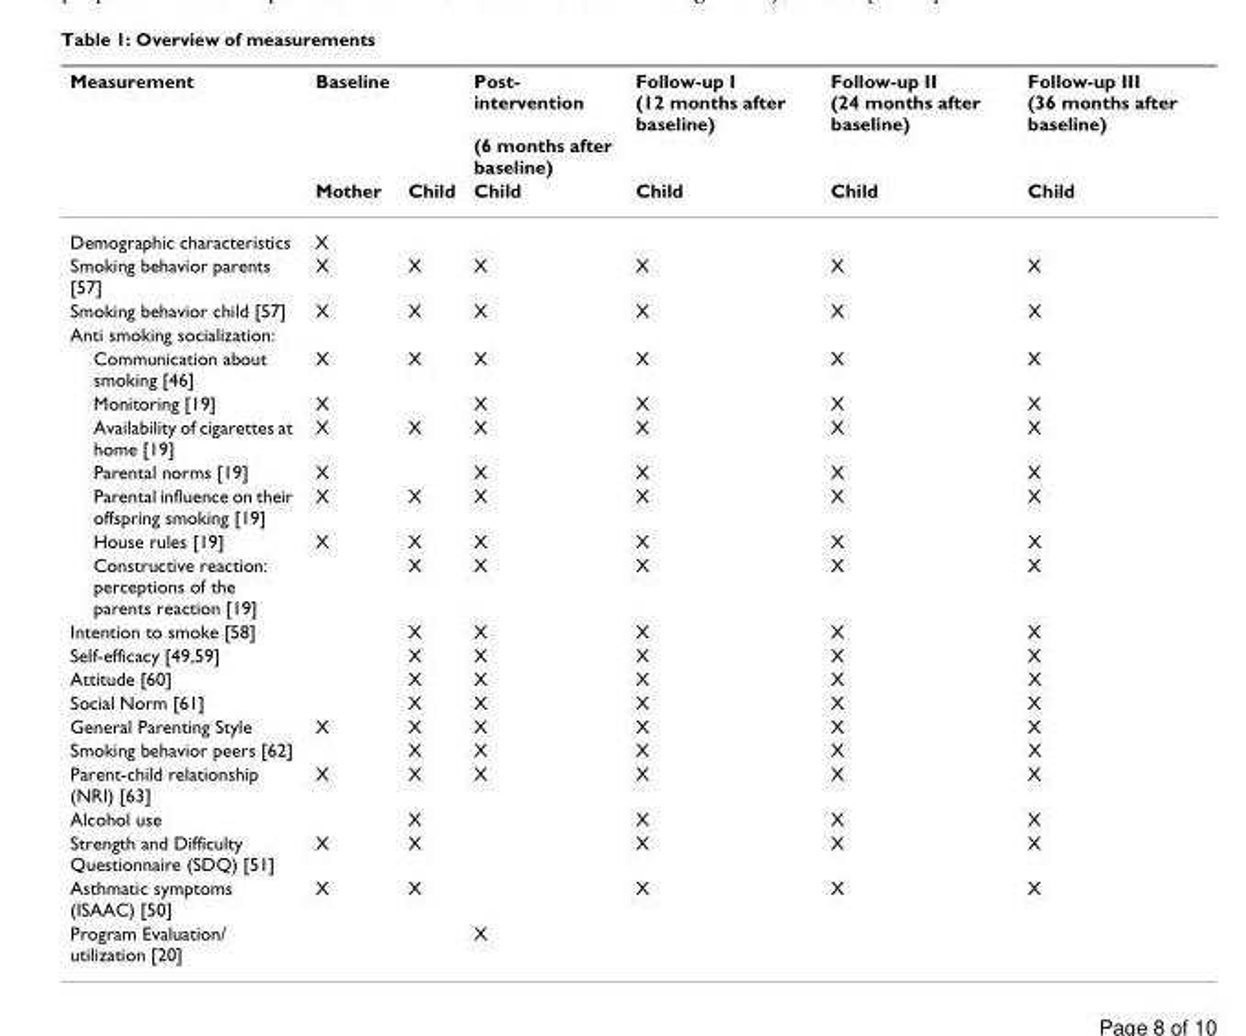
<table><thead><tr><td rowspan="2">Measurement</td><td rowspan="2">Baseline Mother</td><td rowspan="2">Child</td><td rowspan="2">Post- intervention (6 months after baseline) Child</td><td rowspan="2">Follow-up I (12 months after baseline) Child</td><td rowspan="2">Follow-up II (24 months after baseline) Child</td><td rowspan="2">Follow-up III (36 months after baseline) Child</td></tr><tr></tr></thead><tbody><tr><td>Demographic characteristics</td><td>X</td><td></td><td></td><td></td><td></td><td></td></tr><tr><td>Smoking behavior parents [57]</td><td>X</td><td>X</td><td>X</td><td>X</td><td>X</td><td>X</td></tr><tr><td>Smoking behavior child [57]</td><td>X</td><td>X</td><td>X</td><td>X</td><td>X</td><td>X</td></tr><tr><td colspan="7">Anti smoking socialization:</td></tr><tr><td>Communication about smoking [46]</td><td>X</td><td>X</td><td>X</td><td>X</td><td>X</td><td>X</td></tr><tr><td>Monitoring [19]</td><td>X</td><td></td><td>X</td><td>X</td><td>X</td><td>X</td></tr><tr><td>Availability of cigarettes at home [19]</td><td>X</td><td>X</td><td>X</td><td>X</td><td>X</td><td>X</td></tr><tr><td>Parental norms [19]</td><td>X</td><td></td><td>X</td><td>X</td><td>X</td><td>X</td></tr><tr><td>Parental influence on their offspring smoking [19]</td><td>X</td><td>X</td><td>X</td><td>X</td><td>X</td><td>X</td></tr><tr><td>House rules [19]</td><td>X</td><td>X</td><td>X</td><td>X</td><td>X</td><td>X</td></tr><tr><td>Constructive reaction: perceptions of the parents reaction [19]</td><td></td><td>X</td><td>X</td><td>X</td><td>X</td><td>X</td></tr><tr><td>Intention to smoke [58]</td><td></td><td>X</td><td>X</td><td>X</td><td>X</td><td>X</td></tr><tr><td>Self-efficacy [49,59]</td><td></td><td>X</td><td>X</td><td>X</td><td>X</td><td>X</td></tr><tr><td>Attitude [60]</td><td></td><td>X</td><td>X</td><td>X</td><td>X</td><td>X</td></tr><tr><td>Social Norm [61]</td><td></td><td>X</td><td>X</td><td>X</td><td>X</td><td>X</td></tr><tr><td>General Parenting Style</td><td>X</td><td>X</td><td>X</td><td>X</td><td>X</td><td>X</td></tr><tr><td>Smoking behavior peers [62]</td><td></td><td>X</td><td>X</td><td>X</td><td>X</td><td>X</td></tr><tr><td>Parent-child relationship (NRI) [63]</td><td>X</td><td>X</td><td>X</td><td>X</td><td>X</td><td>X</td></tr><tr><td>Alcohol use</td><td></td><td>X</td><td></td><td>X</td><td>X</td><td>X</td></tr><tr><td>Strength and Difficulty Questionnaire (SDQ) [51]</td><td>X</td><td>X</td><td></td><td>X</td><td>X</td><td>X</td></tr><tr><td>Asthmatic symptoms (ISAAC) [50]</td><td>X</td><td>X</td><td></td><td>X</td><td>X</td><td>X</td></tr><tr><td>Program Evaluation/ utilization [20]</td><td></td><td></td><td>X</td><td></td><td></td><td></td></tr></tbody></table>